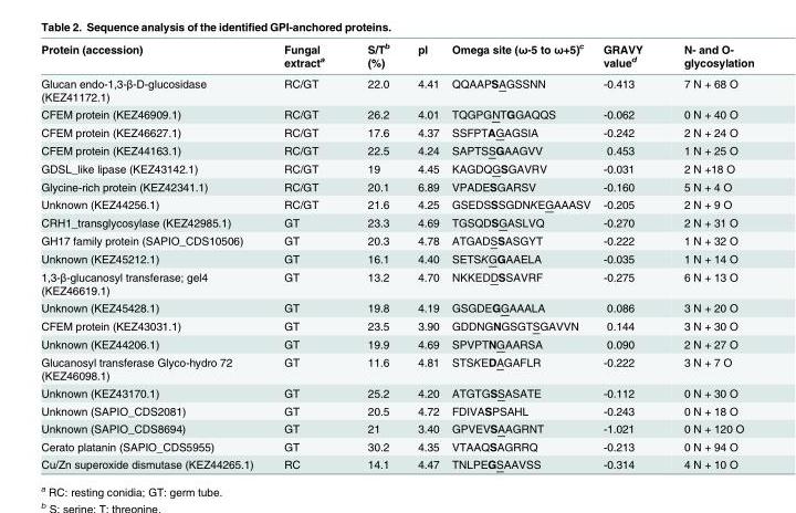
<table><thead><tr><td>Protein (accession)</td><td>Fungal extract<sup>a</sup></td><td>S/T<sup>b</sup> (%)</td><td>pI</td><td>Omega site (ω-5 to ω+5)<sup>c</sup></td><td>GRAVY value<sup>d</sup></td><td>N- and O- glycosylation</td></tr></thead><tbody><tr><td>Glucan endo-1,3-β-D-glucosidase (KEZ41172.1)</td><td>RC/GT</td><td>22.0</td><td>4.41</td><td>QQAAPSAGSSNN</td><td>-0.413</td><td>7 N + 68 O</td></tr><tr><td>CFEM protein (KEZ46909.1)</td><td>RC/GT</td><td>26.2</td><td>4.01</td><td>TQGPGNTGGAQQS</td><td>-0.062</td><td>0 N + 40 O</td></tr><tr><td>CFEM protein (KEZ46627.1)</td><td>RC/GT</td><td>17.6</td><td>4.37</td><td>SSFPTAGAGSIA</td><td>-0.242</td><td>2 N + 24 O</td></tr><tr><td>CFEM protein (KEZ44163.1)</td><td>RC/GT</td><td>22.5</td><td>4.24</td><td>SAPTSSGAAGVV</td><td>0.453</td><td>1 N + 25 O</td></tr><tr><td>GDSL_like lipase (KEZ43142.1)</td><td>RC/GT</td><td>19</td><td>4.45</td><td>KAGDQGSGAVRV</td><td>-0.031</td><td>2 N +18 O</td></tr><tr><td>Glycine-rich protein (KEZ42341.1)</td><td>RC/GT</td><td>20.1</td><td>6.89</td><td>VPADESGARSV</td><td>-0.160</td><td>5 N + 4 O</td></tr><tr><td>Unknown (KEZ44256.1)</td><td>RC/GT</td><td>21.6</td><td>4.25</td><td>GSEDSSSGDNKEGAAASV</td><td>-0.205</td><td>2 N + 9 O</td></tr><tr><td>CRH1_transglycosylase (KEZ42985.1)</td><td>GT</td><td>23.3</td><td>4.69</td><td>TGSQDSGASLVQ</td><td>-0.270</td><td>2 N + 31 O</td></tr><tr><td>GH17 family protein (SAPIO_CDS10506)</td><td>GT</td><td>20.3</td><td>4.78</td><td>ATGADSSASGYT</td><td>-0.222</td><td>1 N + 32 O</td></tr><tr><td>Unknown (KEZ45212.1)</td><td>GT</td><td>16.1</td><td>4.40</td><td>SETSKGGAAELA</td><td>-0.035</td><td>1 N + 14 O</td></tr><tr><td>1,3-β-glucanosyl transferase; gel4 (KEZ46619.1)</td><td>GT</td><td>13.2</td><td>4.70</td><td>NKKEDDSSAVRF</td><td>-0.275</td><td>6 N + 13 O</td></tr><tr><td>Unknown (KEZ45428.1)</td><td>GT</td><td>19.8</td><td>4.19</td><td>GSGDEGGAAALA</td><td>0.086</td><td>3 N + 20 O</td></tr><tr><td>CFEM protein (KEZ43031.1)</td><td>GT</td><td>23.5</td><td>3.90</td><td>GDDNGNGSGTSGAVVN</td><td>0.144</td><td>3 N + 30 O</td></tr><tr><td>Unknown (KEZ44206.1)</td><td>GT</td><td>19.9</td><td>4.69</td><td>SPVPTNGAARSA</td><td>0.090</td><td>2 N + 27 O</td></tr><tr><td>Glucanosyl transferase Glyco-hydro 72 (KEZ46098.1)</td><td>GT</td><td>11.6</td><td>4.81</td><td>STSKEDAGAFLR</td><td>-0.222</td><td>3 N + 7 O</td></tr><tr><td>Unknown (KEZ43170.1)</td><td>GT</td><td>25.2</td><td>4.20</td><td>ATGTGSSASATE</td><td>-0.112</td><td>0 N + 30 O</td></tr><tr><td>Unknown (SAPIO_CDS2081)</td><td>GT</td><td>20.5</td><td>4.72</td><td>FDIVASPSAHL</td><td>-0.243</td><td>0 N + 18 O</td></tr><tr><td>Unknown (SAPIO_CDS8694)</td><td>GT</td><td>21</td><td>3.40</td><td>GPVEVSAAGRNT</td><td>-1.021</td><td>0 N + 120 O</td></tr><tr><td>Cerato platanin (SAPIO_CDS5955)</td><td>GT</td><td>30.2</td><td>4.35</td><td>VTAAQSAGRRQ</td><td>-0.213</td><td>0 N + 94 O</td></tr><tr><td>Cu/Zn superoxide dismutase (KEZ44265.1)</td><td>RC</td><td>14.1</td><td>4.47</td><td>TNLPEGSAAVSS</td><td>-0.314</td><td>4 N + 10 O</td></tr></tbody></table>